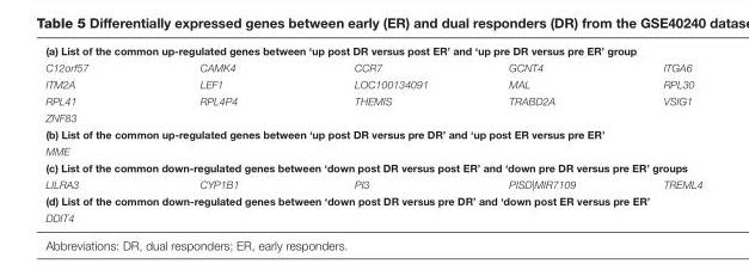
<table><tbody><tr><td colspan="5">(a) List of the common up-regulated genes between ‘up post DR versus post ER’ and ‘up pre DR versus pre ER’ group</td></tr><tr><td>C12orf57</td><td>CAMK4</td><td>CCR7</td><td>GCNT4</td><td>ITGA6</td></tr><tr><td>ITM2A</td><td>LEF1</td><td>LOC100134091</td><td>MAL</td><td>RPL30</td></tr><tr><td>RPL41</td><td>RPL4P4</td><td>THEMIS</td><td>TRABD2A</td><td>VSIG1</td></tr><tr><td colspan="5">ZNF83</td></tr><tr><td colspan="5">(b) List of the common up-regulated genes between ‘up post DR versus pre DR’ and ‘up post ER versus pre ER’</td></tr><tr><td colspan="5">MME</td></tr><tr><td colspan="5">(c) List of the common down-regulated genes between ‘down post DR versus post ER’ and ‘down pre DR versus pre ER’ groups</td></tr><tr><td>LILRA3</td><td>CYP1B1</td><td>PI3</td><td>PISD|MIR7109</td><td>TREML4</td></tr><tr><td colspan="5">(d) List of the common down-regulated genes between ‘down post DR versus pre DR’ and ‘down post ER versus pre ER’</td></tr><tr><td>DDIT4</td><td></td><td></td><td></td><td></td></tr></tbody></table>